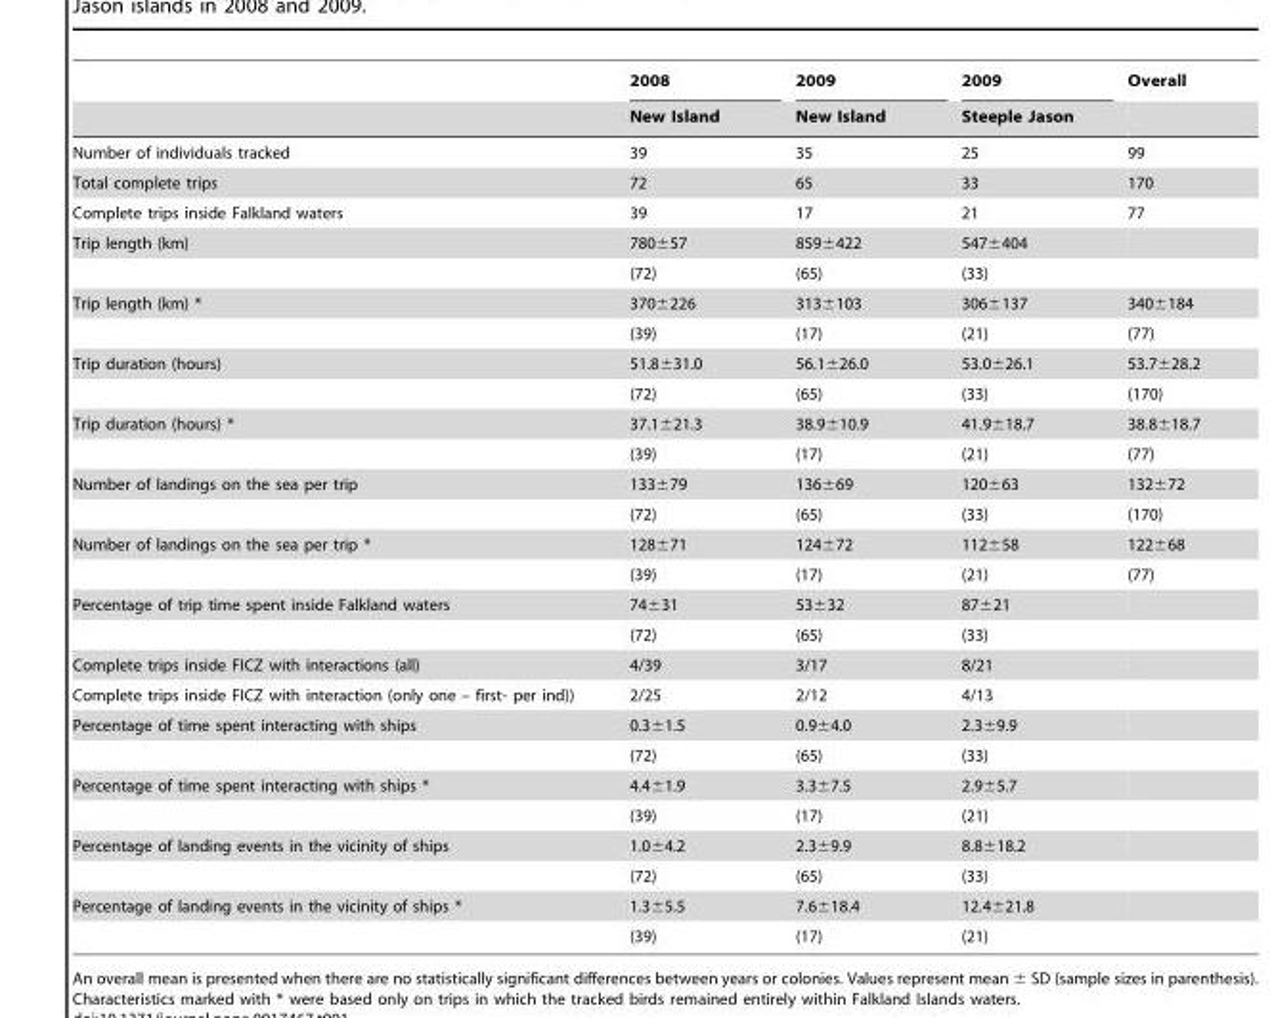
<table><thead><tr><td rowspan="2"></td><td rowspan="2">2008 New Island</td><td rowspan="2">2009 New Island</td><td rowspan="2">2009 Steeple Jason</td><td rowspan="2">Overall</td></tr><tr></tr></thead><tbody><tr><td>Number of individuals tracked</td><td>39</td><td>35</td><td>25</td><td>99</td></tr><tr><td>Total complete trips</td><td>72</td><td>65</td><td>33</td><td>170</td></tr><tr><td>Complete trips inside Falkland waters</td><td>39</td><td>17</td><td>21</td><td>77</td></tr><tr><td rowspan="2">Trip length (km)</td><td>780±57</td><td>859±422</td><td>547±404</td><td></td></tr><tr><td>(72)</td><td>(65)</td><td>(33)</td><td></td></tr><tr><td rowspan="2">Trip length (km) *</td><td>370±226</td><td>313±103</td><td>306±137</td><td>340±184</td></tr><tr><td>(39)</td><td>(17)</td><td>(21)</td><td>(77)</td></tr><tr><td rowspan="2">Trip duration (hours)</td><td>51.8±31.0</td><td>56.1±26.0</td><td>53.0±26.1</td><td>53.7±28.2</td></tr><tr><td>(72)</td><td>(65)</td><td>(33)</td><td>(170)</td></tr><tr><td rowspan="2">Trip duration (hours) *</td><td>37.1±21.3</td><td>38.9±10.9</td><td>41.9±18.7</td><td>38.8±18.7</td></tr><tr><td>(39)</td><td>(17)</td><td>(21)</td><td>(77)</td></tr><tr><td rowspan="2">Number of landings on the sea per trip</td><td>133±79</td><td>136±69</td><td>120±63</td><td>132±72</td></tr><tr><td>(72)</td><td>(65)</td><td>(33)</td><td>(170)</td></tr><tr><td rowspan="2">Number of landings on the sea per trip *</td><td>128±71</td><td>124±72</td><td>112±58</td><td>122±68</td></tr><tr><td>(39)</td><td>(17)</td><td>(21)</td><td>(77)</td></tr><tr><td rowspan="2">Percentage of trip time spent inside Falkland waters</td><td>74±31</td><td>53±32</td><td>87±21</td><td></td></tr><tr><td>(72)</td><td>(65)</td><td>(33)</td><td></td></tr><tr><td>Complete trips inside FICZ with interactions (all)</td><td>4/39</td><td>3/17</td><td>8/21</td><td></td></tr><tr><td>Complete trips inside FICZ with interaction (only one – first- per ind))</td><td>2/25</td><td>2/12</td><td>4/13</td><td></td></tr><tr><td rowspan="2">Percentage of time spent interacting with ships</td><td>0.3±1.5</td><td>0.9±4.0</td><td>2.3±9.9</td><td></td></tr><tr><td>(72)</td><td>(65)</td><td>(33)</td><td></td></tr><tr><td rowspan="2">Percentage of time spent interacting with ships *</td><td>4.4±1.9</td><td>3.3±7.5</td><td>2.9±5.7</td><td></td></tr><tr><td>(39)</td><td>(17)</td><td>(21)</td><td></td></tr><tr><td rowspan="2">Percentage of landing events in the vicinity of ships</td><td>1.0±4.2</td><td>2.3±9.9</td><td>8.8±18.2</td><td></td></tr><tr><td>(72)</td><td>(65)</td><td>(33)</td><td></td></tr><tr><td rowspan="2">Percentage of landing events in the vicinity of ships *</td><td>1.3±5.5</td><td>7.6±18.4</td><td>12.4±21.8</td><td></td></tr><tr><td>(39)</td><td>(17)</td><td>(21)</td><td></td></tr></tbody></table>